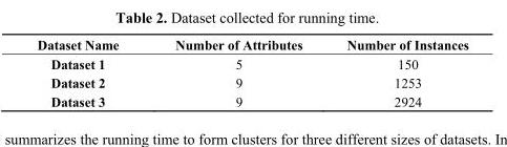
<table><thead><tr><td>Dataset Name</td><td>Number of Attributes</td><td>Number of Instances</td></tr></thead><tbody><tr><td>Dataset 1</td><td>5</td><td>150</td></tr><tr><td>Dataset 2</td><td>9</td><td>1253</td></tr><tr><td>Dataset 3</td><td>9</td><td>2924</td></tr></tbody></table>